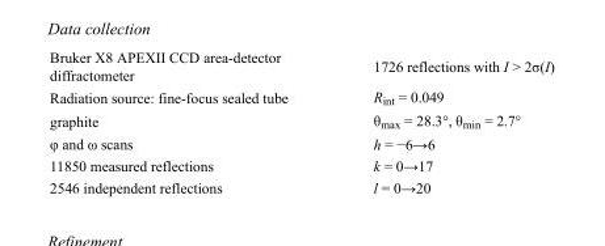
<table><tbody><tr><td>Bruker X8 APEXII CCD area-detector diffractometer</td><td>1726 reflections with I &gt; 2σ(I)</td></tr><tr><td>Radiation source: fine-focus sealed tube</td><td>R<sub>int</sub> = 0.049</td></tr><tr><td>graphite</td><td>θ<sub>max</sub> = 28.3°, θ<sub>min</sub> = 2.7°</td></tr><tr><td>φ and ω scans</td><td>h = −6→6</td></tr><tr><td>11850 measured reflections</td><td>k = 0→17</td></tr><tr><td>2546 independent reflections</td><td>l = 0→20</td></tr></tbody></table>